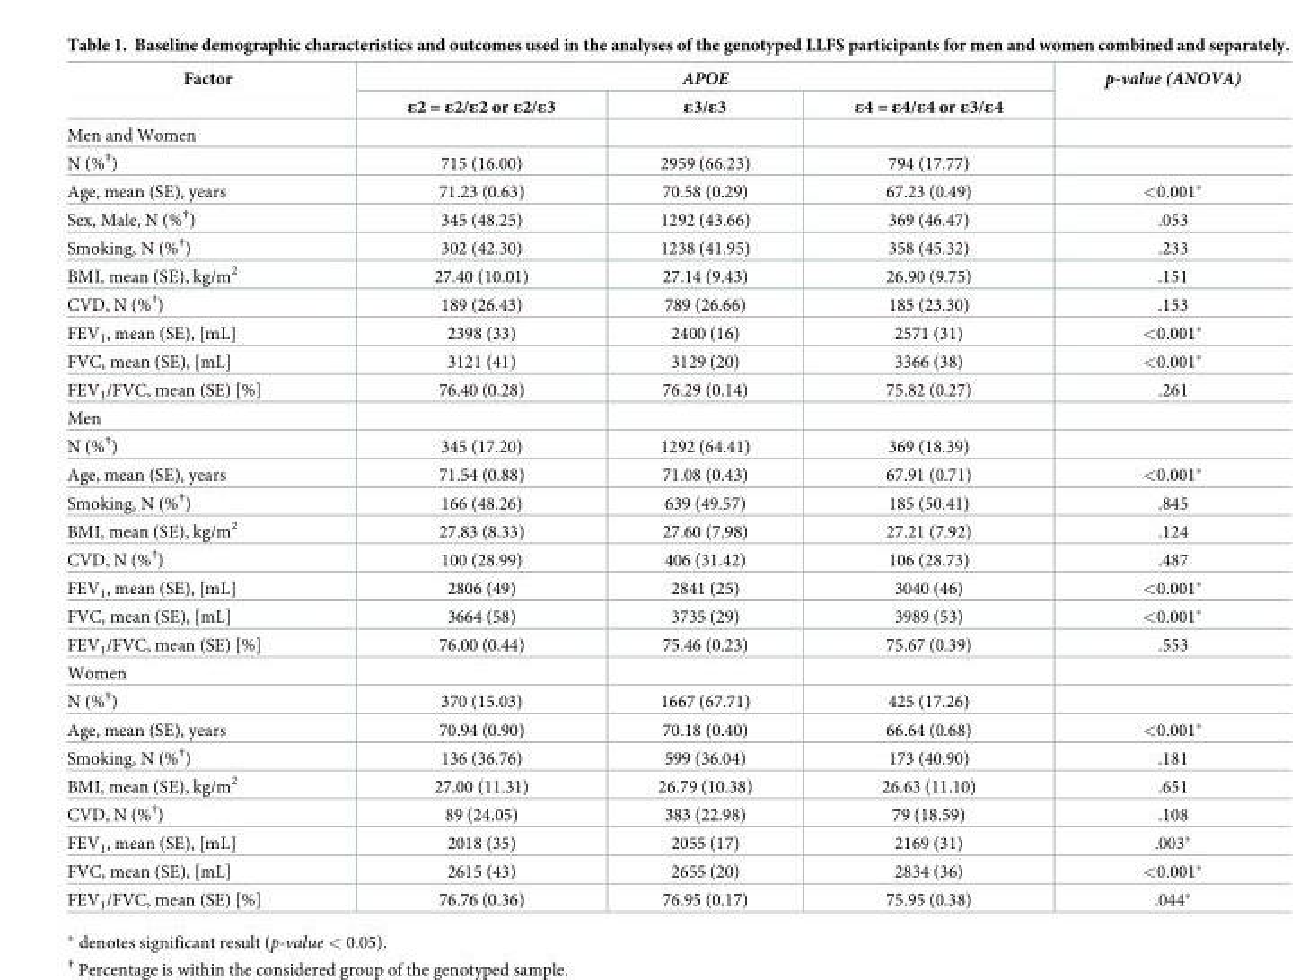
<table><thead><tr><td rowspan="2">Factor</td><td colspan="3">APOE</td><td rowspan="2">p-value (ANOVA)</td></tr><tr><td>ε2 = ε2/ε2 or ε2/ε3</td><td>ε3/ε3</td><td>ε4 = ε4/ε4 or ε3/ε4</td></tr></thead><tbody><tr><td colspan="5">Men and Women</td></tr><tr><td>N (%<sup>†</sup>)</td><td>715 (16.00)</td><td>2959 (66.23)</td><td>794 (17.77)</td><td></td></tr><tr><td>Age, mean (SE), years</td><td>71.23 (0.63)</td><td>70.58 (0.29)</td><td>67.23 (0.49)</td><td>&lt;0.001*</td></tr><tr><td>Sex, Male, N (%<sup>†</sup>)</td><td>345 (48.25)</td><td>1292 (43.66)</td><td>369 (46.47)</td><td>.053</td></tr><tr><td>Smoking, N (%<sup>†</sup>)</td><td>302 (42.30)</td><td>1238 (41.95)</td><td>358 (45.32)</td><td>.233</td></tr><tr><td>BMI, mean (SE), kg/m<sup>2</sup></td><td>27.40 (10.01)</td><td>27.14 (9.43)</td><td>26.90 (9.75)</td><td>.151</td></tr><tr><td>CVD, N (%<sup>†</sup>)</td><td>189 (26.43)</td><td>789 (26.66)</td><td>185 (23.30)</td><td>.153</td></tr><tr><td>FEV<sub>1</sub>, mean (SE), [mL]</td><td>2398 (33)</td><td>2400 (16)</td><td>2571 (31)</td><td>&lt;0.001*</td></tr><tr><td>FVC, mean (SE), [mL]</td><td>3121 (41)</td><td>3129 (20)</td><td>3366 (38)</td><td>&lt;0.001*</td></tr><tr><td>FEV<sub>1</sub>/FVC, mean (SE) [%]</td><td>76.40 (0.28)</td><td>76.29 (0.14)</td><td>75.82 (0.27)</td><td>.261</td></tr><tr><td colspan="5">Men</td></tr><tr><td>N (%<sup>†</sup>)</td><td>345 (17.20)</td><td>1292 (64.41)</td><td>369 (18.39)</td><td></td></tr><tr><td>Age, mean (SE), years</td><td>71.54 (0.88)</td><td>71.08 (0.43)</td><td>67.91 (0.71)</td><td>&lt;0.001*</td></tr><tr><td>Smoking, N (%<sup>†</sup>)</td><td>166 (48.26)</td><td>639 (49.57)</td><td>185 (50.41)</td><td>.845</td></tr><tr><td>BMI, mean (SE), kg/m<sup>2</sup></td><td>27.83 (8.33)</td><td>27.60 (7.98)</td><td>27.21 (7.92)</td><td>.124</td></tr><tr><td>CVD, N (%<sup>†</sup>)</td><td>100 (28.99)</td><td>406 (31.42)</td><td>106 (28.73)</td><td>.487</td></tr><tr><td>FEV<sub>1</sub>, mean (SE), [mL]</td><td>2806 (49)</td><td>2841 (25)</td><td>3040 (46)</td><td>&lt;0.001*</td></tr><tr><td>FVC, mean (SE), [mL]</td><td>3664 (58)</td><td>3735 (29)</td><td>3989 (53)</td><td>&lt;0.001*</td></tr><tr><td>FEV<sub>1</sub>/FVC, mean (SE) [%]</td><td>76.00 (0.44)</td><td>75.46 (0.23)</td><td>75.67 (0.39)</td><td>.553</td></tr><tr><td colspan="5">Women</td></tr><tr><td>N (%<sup>†</sup>)</td><td>370 (15.03)</td><td>1667 (67.71)</td><td>425 (17.26)</td><td></td></tr><tr><td>Age, mean (SE), years</td><td>70.94 (0.90)</td><td>70.18 (0.40)</td><td>66.64 (0.68)</td><td>&lt;0.001*</td></tr><tr><td>Smoking, N (%<sup>†</sup>)</td><td>136 (36.76)</td><td>599 (36.04)</td><td>173 (40.90)</td><td>.181</td></tr><tr><td>BMI, mean (SE), kg/m<sup>2</sup></td><td>27.00 (11.31)</td><td>26.79 (10.38)</td><td>26.63 (11.10)</td><td>.651</td></tr><tr><td>CVD, N (%<sup>†</sup>)</td><td>89 (24.05)</td><td>383 (22.98)</td><td>79 (18.59)</td><td>.108</td></tr><tr><td>FEV<sub>1</sub>, mean (SE), [mL]</td><td>2018 (35)</td><td>2055 (17)</td><td>2169 (31)</td><td>.003*</td></tr><tr><td>FVC, mean (SE), [mL]</td><td>2615 (43)</td><td>2655 (20)</td><td>2834 (36)</td><td>&lt;0.001*</td></tr><tr><td>FEV<sub>1</sub>/FVC, mean (SE) [%]</td><td>76.76 (0.36)</td><td>76.95 (0.17)</td><td>75.95 (0.38)</td><td>.044*</td></tr></tbody></table>